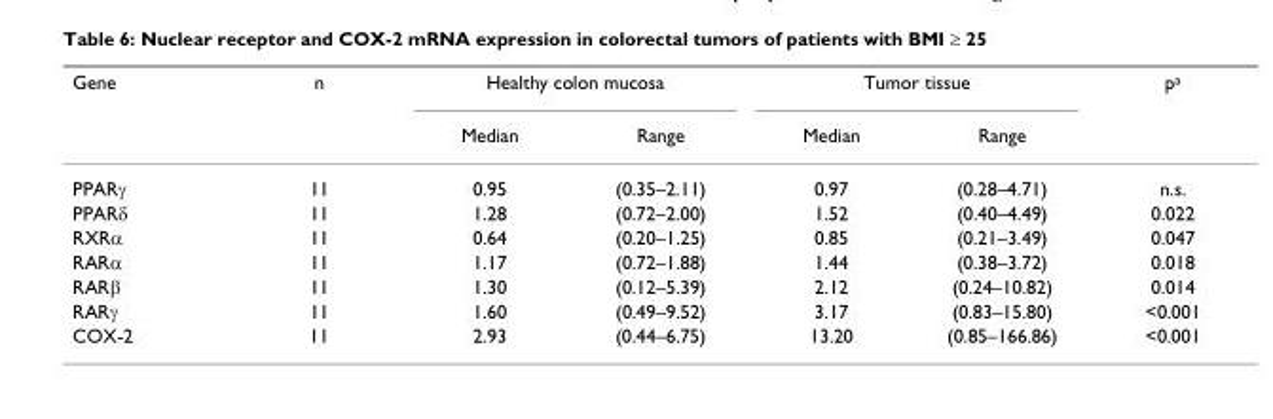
<table><thead><tr><td rowspan="2">Gene</td><td rowspan="2">n</td><td colspan="2">Healthy colon mucosa</td><td colspan="2">Tumor tissue</td><td rowspan="2">p<sup>a</sup></td></tr><tr><td>Median</td><td>Range</td><td>Median</td><td>Range</td></tr></thead><tbody><tr><td>PPARγ</td><td>11</td><td>0.95</td><td>(0.35–2.11)</td><td>0.97</td><td>(0.28–4.71)</td><td>n.s.</td></tr><tr><td>PPARδ</td><td>11</td><td>1.28</td><td>(0.72–2.00)</td><td>1.52</td><td>(0.40–4.49)</td><td>0.022</td></tr><tr><td>RXRα</td><td>11</td><td>0.64</td><td>(0.20–1.25)</td><td>0.85</td><td>(0.21–3.49)</td><td>0.047</td></tr><tr><td>RARα</td><td>11</td><td>1.17</td><td>(0.72–1.88)</td><td>1.44</td><td>(0.38–3.72)</td><td>0.018</td></tr><tr><td>RARβ</td><td>11</td><td>1.30</td><td>(0.12–5.39)</td><td>2.12</td><td>(0.24–10.82)</td><td>0.014</td></tr><tr><td>RARγ</td><td>11</td><td>1.60</td><td>(0.49–9.52)</td><td>3.17</td><td>(0.83–15.80)</td><td>&lt;0.001</td></tr><tr><td>COX-2</td><td>11</td><td>2.93</td><td>(0.44–6.75)</td><td>13.20</td><td>(0.85–166.86)</td><td>&lt;0.001</td></tr></tbody></table>